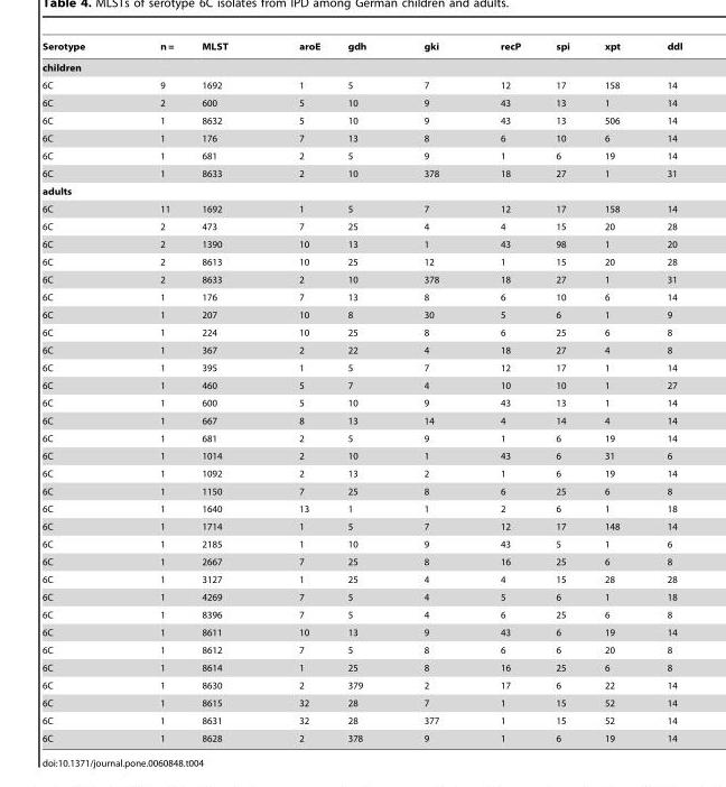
<table><thead><tr><td>Serotype</td><td>n =</td><td>MLST</td><td>aroE</td><td>gdh</td><td>gki</td><td>recP</td><td>spi</td><td>xpt</td><td>ddl</td></tr></thead><tbody><tr><td colspan="10">children</td></tr><tr><td>6C</td><td>9</td><td>1692</td><td>1</td><td>5</td><td>7</td><td>12</td><td>17</td><td>158</td><td>14</td></tr><tr><td>6C</td><td>2</td><td>600</td><td>5</td><td>10</td><td>9</td><td>43</td><td>13</td><td>1</td><td>14</td></tr><tr><td>6C</td><td>1</td><td>8632</td><td>5</td><td>10</td><td>9</td><td>43</td><td>13</td><td>506</td><td>14</td></tr><tr><td>6C</td><td>1</td><td>176</td><td>7</td><td>13</td><td>8</td><td>6</td><td>10</td><td>6</td><td>14</td></tr><tr><td>6C</td><td>1</td><td>681</td><td>2</td><td>5</td><td>9</td><td>1</td><td>6</td><td>19</td><td>14</td></tr><tr><td>6C</td><td>1</td><td>8633</td><td>2</td><td>10</td><td>378</td><td>18</td><td>27</td><td>1</td><td>31</td></tr><tr><td colspan="10">adults</td></tr><tr><td>6C</td><td>11</td><td>1692</td><td>1</td><td>5</td><td>7</td><td>12</td><td>17</td><td>158</td><td>14</td></tr><tr><td>6C</td><td>2</td><td>473</td><td>7</td><td>25</td><td>4</td><td>4</td><td>15</td><td>20</td><td>28</td></tr><tr><td>6C</td><td>2</td><td>1390</td><td>10</td><td>13</td><td>1</td><td>43</td><td>98</td><td>1</td><td>20</td></tr><tr><td>6C</td><td>2</td><td>8613</td><td>10</td><td>25</td><td>12</td><td>1</td><td>15</td><td>20</td><td>28</td></tr><tr><td>6C</td><td>2</td><td>8633</td><td>2</td><td>10</td><td>378</td><td>18</td><td>27</td><td>1</td><td>31</td></tr><tr><td>6C</td><td>1</td><td>176</td><td>7</td><td>13</td><td>8</td><td>6</td><td>10</td><td>6</td><td>14</td></tr><tr><td>6C</td><td>1</td><td>207</td><td>10</td><td>8</td><td>30</td><td>5</td><td>6</td><td>1</td><td>9</td></tr><tr><td>6C</td><td>1</td><td>224</td><td>10</td><td>25</td><td>8</td><td>6</td><td>25</td><td>6</td><td>8</td></tr><tr><td>6C</td><td>1</td><td>367</td><td>2</td><td>22</td><td>4</td><td>18</td><td>27</td><td>4</td><td>8</td></tr><tr><td>6C</td><td>1</td><td>395</td><td>1</td><td>5</td><td>7</td><td>12</td><td>17</td><td>1</td><td>14</td></tr><tr><td>6C</td><td>1</td><td>460</td><td>5</td><td>7</td><td>4</td><td>10</td><td>10</td><td>1</td><td>27</td></tr><tr><td>6C</td><td>1</td><td>600</td><td>5</td><td>10</td><td>9</td><td>43</td><td>13</td><td>1</td><td>14</td></tr><tr><td>6C</td><td>1</td><td>667</td><td>8</td><td>13</td><td>14</td><td>4</td><td>14</td><td>4</td><td>14</td></tr><tr><td>6C</td><td>1</td><td>681</td><td>2</td><td>5</td><td>9</td><td>1</td><td>6</td><td>19</td><td>14</td></tr><tr><td>6C</td><td>1</td><td>1014</td><td>2</td><td>10</td><td>1</td><td>43</td><td>6</td><td>31</td><td>6</td></tr><tr><td>6C</td><td>1</td><td>1092</td><td>2</td><td>13</td><td>2</td><td>1</td><td>6</td><td>19</td><td>14</td></tr><tr><td>6C</td><td>1</td><td>1150</td><td>7</td><td>25</td><td>8</td><td>6</td><td>25</td><td>6</td><td>8</td></tr><tr><td>6C</td><td>1</td><td>1640</td><td>13</td><td>1</td><td>1</td><td>2</td><td>6</td><td>1</td><td>18</td></tr><tr><td>6C</td><td>1</td><td>1714</td><td>1</td><td>5</td><td>7</td><td>12</td><td>17</td><td>148</td><td>14</td></tr><tr><td>6C</td><td>1</td><td>2185</td><td>1</td><td>10</td><td>9</td><td>43</td><td>5</td><td>1</td><td>6</td></tr><tr><td>6C</td><td>1</td><td>2667</td><td>7</td><td>25</td><td>8</td><td>16</td><td>25</td><td>6</td><td>8</td></tr><tr><td>6C</td><td>1</td><td>3127</td><td>1</td><td>25</td><td>4</td><td>4</td><td>15</td><td>28</td><td>28</td></tr><tr><td>6C</td><td>1</td><td>4269</td><td>7</td><td>5</td><td>4</td><td>5</td><td>6</td><td>1</td><td>18</td></tr><tr><td>6C</td><td>1</td><td>8396</td><td>7</td><td>5</td><td>4</td><td>6</td><td>25</td><td>6</td><td>8</td></tr><tr><td>6C</td><td>1</td><td>8611</td><td>10</td><td>13</td><td>9</td><td>43</td><td>6</td><td>19</td><td>14</td></tr><tr><td>6C</td><td>1</td><td>8612</td><td>7</td><td>5</td><td>8</td><td>6</td><td>6</td><td>20</td><td>8</td></tr><tr><td>6C</td><td>1</td><td>8614</td><td>1</td><td>25</td><td>8</td><td>16</td><td>25</td><td>6</td><td>8</td></tr><tr><td>6C</td><td>1</td><td>8630</td><td>2</td><td>379</td><td>2</td><td>17</td><td>6</td><td>22</td><td>14</td></tr><tr><td>6C</td><td>1</td><td>8615</td><td>32</td><td>28</td><td>7</td><td>1</td><td>15</td><td>52</td><td>14</td></tr><tr><td>6C</td><td>1</td><td>8631</td><td>32</td><td>28</td><td>377</td><td>1</td><td>15</td><td>52</td><td>14</td></tr><tr><td>6C</td><td>1</td><td>8628</td><td>2</td><td>378</td><td>9</td><td>1</td><td>6</td><td>19</td><td>14</td></tr></tbody></table>